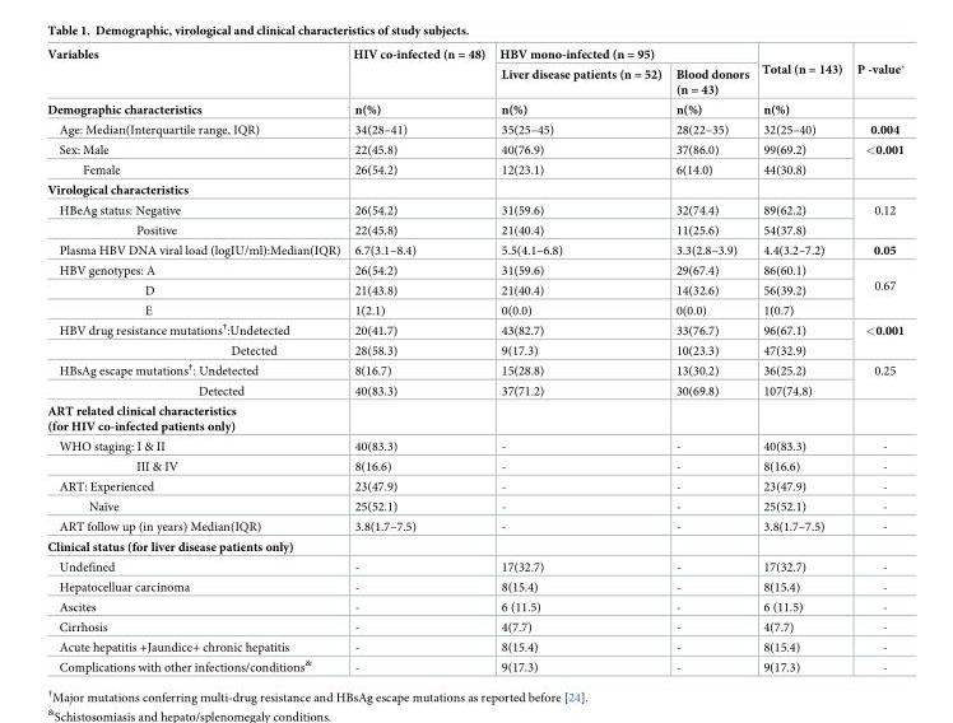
<table><thead><tr><td rowspan="2">Variables</td><td rowspan="2">HIV co-infected (n = 48)</td><td colspan="2">HBV mono-infected (n = 95)</td><td rowspan="2">Total (n = 143)</td><td rowspan="2">P -value*</td></tr><tr><td>Liver disease patients (n = 52)</td><td>Blood donors (n = 43)</td></tr></thead><tbody><tr><td>Demographic characteristics</td><td>n(%)</td><td>n(%)</td><td>n(%)</td><td>n(%)</td><td></td></tr><tr><td>Age: Median(Interquartile range, IQR)</td><td>34(28–41)</td><td>35(25–45)</td><td>28(22–35)</td><td>32(25–40)</td><td>0.004</td></tr><tr><td>Sex: Male</td><td>22(45.8)</td><td>40(76.9)</td><td>37(86.0)</td><td>99(69.2)</td><td rowspan="2">&lt;0.001</td></tr><tr><td>Female</td><td>26(54.2)</td><td>12(23.1)</td><td>6(14.0)</td><td>44(30.8)</td></tr><tr><td colspan="6">Virological characteristics</td></tr><tr><td>HBeAg status: Negative</td><td>26(54.2)</td><td>31(59.6)</td><td>32(74.4)</td><td>89(62.2)</td><td rowspan="2">0.12</td></tr><tr><td>Positive</td><td>22(45.8)</td><td>21(40.4)</td><td>11(25.6)</td><td>54(37.8)</td></tr><tr><td>Plasma HBV DNA viral load (logIU/ml):Median(IQR)</td><td>6.7(3.1–8.4)</td><td>5.5(4.1–6.8)</td><td>3.3(2.8–3.9)</td><td>4.4(3.2–7.2)</td><td>0.05</td></tr><tr><td>HBV genotypes: A</td><td>26(54.2)</td><td>31(59.6)</td><td>29(67.4)</td><td>86(60.1)</td><td rowspan="3">0.67</td></tr><tr><td>D</td><td>21(43.8)</td><td>21(40.4)</td><td>14(32.6)</td><td>56(39.2)</td></tr><tr><td>E</td><td>1(2.1)</td><td>0(0.0)</td><td>0(0.0)</td><td>1(0.7)</td></tr><tr><td>HBV drug resistance mutations<sup>†</sup>:Undetected</td><td>20(41.7)</td><td>43(82.7)</td><td>33(76.7)</td><td>96(67.1)</td><td rowspan="2">&lt;0.001</td></tr><tr><td>Detected</td><td>28(58.3)</td><td>9(17.3)</td><td>10(23.3)</td><td>47(32.9)</td></tr><tr><td>HBsAg escape mutations<sup>†</sup>: Undetected</td><td>8(16.7)</td><td>15(28.8)</td><td>13(30.2)</td><td>36(25.2)</td><td rowspan="2">0.25</td></tr><tr><td>Detected</td><td>40(83.3)</td><td>37(71.2)</td><td>30(69.8)</td><td>107(74.8)</td></tr><tr><td colspan="6">ART related clinical characteristics (for HIV co-infected patients only)</td></tr><tr><td>WHO staging: I &amp; II</td><td>40(83.3)</td><td>-</td><td>-</td><td>40(83.3)</td><td>-</td></tr><tr><td>III &amp; IV</td><td>8(16.6)</td><td>-</td><td>-</td><td>8(16.6)</td><td>-</td></tr><tr><td>ART: Experienced</td><td>23(47.9)</td><td>-</td><td>-</td><td>23(47.9)</td><td>-</td></tr><tr><td>Naïve</td><td>25(52.1)</td><td>-</td><td>-</td><td>25(52.1)</td><td>-</td></tr><tr><td>ART follow up (in years) Median(IQR)</td><td>3.8(1.7–7.5)</td><td>-</td><td>-</td><td>3.8(1.7–7.5)</td><td>-</td></tr><tr><td colspan="6">Clinical status (for liver disease patients only)</td></tr><tr><td>Undefined</td><td>-</td><td>17(32.7)</td><td>-</td><td>17(32.7)</td><td>-</td></tr><tr><td>Hepatocelluar carcinoma</td><td>-</td><td>8(15.4)</td><td>-</td><td>8(15.4)</td><td>-</td></tr><tr><td>Ascites</td><td>-</td><td>6 (11.5)</td><td>-</td><td>6 (11.5)</td><td>-</td></tr><tr><td>Cirrhosis</td><td>-</td><td>4(7.7)</td><td>-</td><td>4(7.7)</td><td>-</td></tr><tr><td>Acute hepatitis +Jaundice+ chronic hepatitis</td><td>-</td><td>8(15.4)</td><td>-</td><td>8(15.4)</td><td>-</td></tr><tr><td>Complications with other infections/conditions<sup>&amp;</sup></td><td>-</td><td>9(17.3)</td><td>-</td><td>9(17.3)</td><td>-</td></tr></tbody></table>